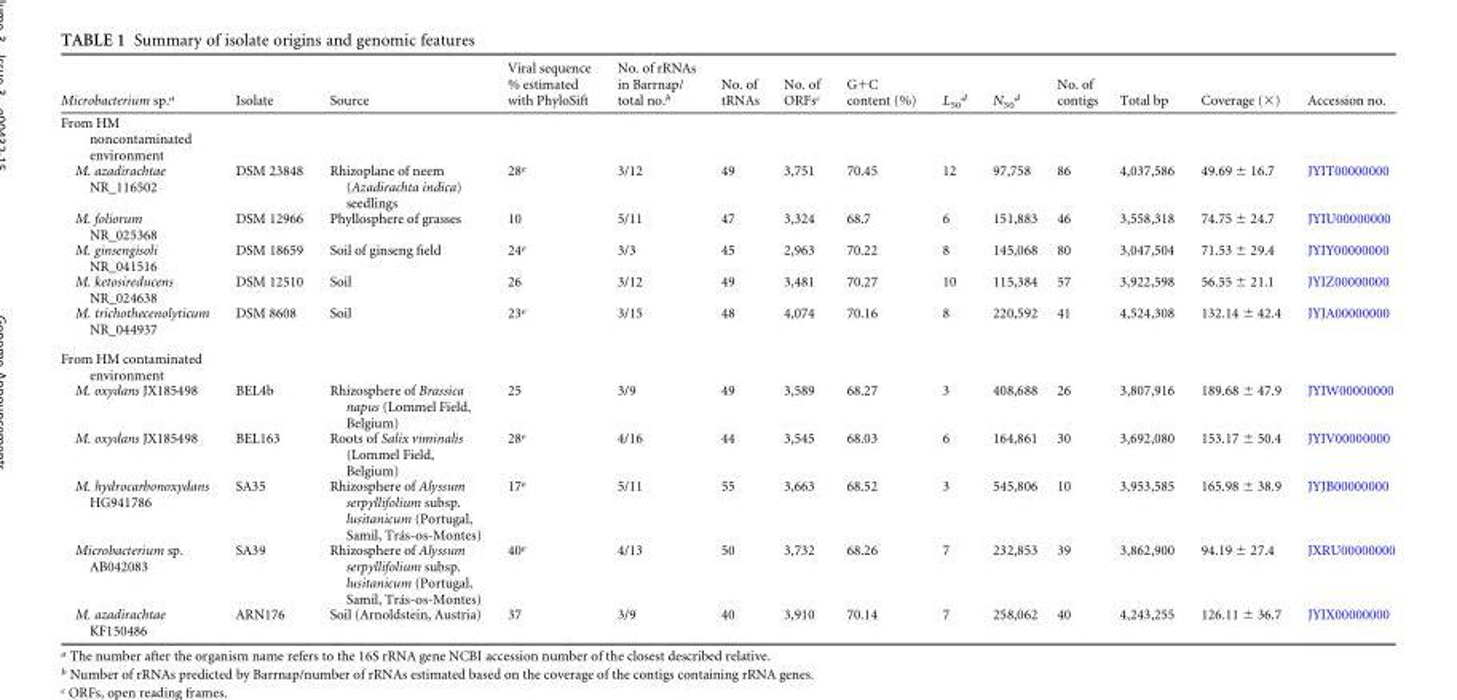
<table><thead><tr><td>Microbacterium sp.<sup>a</sup></td><td>Isolate</td><td>Source</td><td>Viral sequence % estimated with PhyloSift</td><td>No. of rRNAs in Barrnap/ total no.<sup>b</sup></td><td>No. of tRNAs</td><td>No. of ORFs<sup>c</sup></td><td>G+C content (%)</td><td>L<sub>50</sub><sup>d</sup></td><td>N<sub>50</sub><sup>d</sup></td><td>No. of contigs</td><td>Total bp</td><td>Coverage (×)</td><td>Accession no.</td></tr></thead><tbody><tr><td colspan="14">From HM noncontaminated environment</td></tr><tr><td>M. azadirachtae NR_116502</td><td>DSM 23848</td><td>Rhizoplane of neem (Azadirachta indica) seedlings</td><td>28<sup>e</sup></td><td>3/12</td><td>49</td><td>3,751</td><td>70.45</td><td>12</td><td>97,758</td><td>86</td><td>4,037,586</td><td>49.69 ± 16.7</td><td>JYIT00000000</td></tr><tr><td>M. foliorum NR_025368</td><td>DSM 12966</td><td>Phyllosphere of grasses</td><td>10</td><td>5/11</td><td>47</td><td>3,324</td><td>68.7</td><td>6</td><td>151,883</td><td>46</td><td>3,558,318</td><td>74.75 ± 24.7</td><td>JYIU00000000</td></tr><tr><td>M. ginsengisoli NR_041516</td><td>DSM 18659</td><td>Soil of ginseng field</td><td>24<sup>e</sup></td><td>3/3</td><td>45</td><td>2,963</td><td>70.22</td><td>8</td><td>145,068</td><td>80</td><td>3,047,504</td><td>71.53 ± 29.4</td><td>JYIY00000000</td></tr><tr><td>M. ketosireducens NR_024638</td><td>DSM 12510</td><td>Soil</td><td>26</td><td>3/12</td><td>49</td><td>3,481</td><td>70.27</td><td>10</td><td>115,384</td><td>57</td><td>3,922,598</td><td>56.55 ± 21.1</td><td>JYIZ00000000</td></tr><tr><td>M. trichothecenolyticum NR_044937</td><td>DSM 8608</td><td>Soil</td><td>23<sup>e</sup></td><td>3/15</td><td>48</td><td>4,074</td><td>70.16</td><td>8</td><td>220,592</td><td>41</td><td>4,524,308</td><td>132.14 ± 42.4</td><td>JYJA00000000</td></tr><tr><td colspan="14">From HM contaminated environment</td></tr><tr><td>M. oxydans JX185498</td><td>BEL4b</td><td>Rhizosphere of Brassica napus (Lommel Field, Belgium)</td><td>25</td><td>3/9</td><td>49</td><td>3,589</td><td>68.27</td><td>3</td><td>408,688</td><td>26</td><td>3,807,916</td><td>189.68 ± 47.9</td><td>JYIW00000000</td></tr><tr><td>M. oxydans JX185498</td><td>BEL163</td><td>Roots of Salix viminalis (Lommel Field, Belgium)</td><td>28<sup>e</sup></td><td>4/16</td><td>44</td><td>3,545</td><td>68.03</td><td>6</td><td>164,861</td><td>30</td><td>3,692,080</td><td>153.17 ± 50.4</td><td>JYIV00000000</td></tr><tr><td>M. hydrocarbonoxydans HG941786</td><td>SA35</td><td>Rhizosphere of Alyssum serpyllifolium subsp. lusitanicum (Portugal, Samil, Trás-os-Montes)</td><td>17<sup>e</sup></td><td>5/11</td><td>55</td><td>3,663</td><td>68.52</td><td>3</td><td>545,806</td><td>10</td><td>3,953,585</td><td>165.98 ± 38.9</td><td>JYJB00000000</td></tr><tr><td>Microbacterium sp. AB042083</td><td>SA39</td><td>Rhizosphere of Alyssum serpyllifolium subsp. lusitanicum (Portugal, Samil, Trás-os-Montes)</td><td>40<sup>e</sup></td><td>4/13</td><td>50</td><td>3,732</td><td>68.26</td><td>7</td><td>232,853</td><td>39</td><td>3,862,900</td><td>94.19 ± 27.4</td><td>JXRU00000000</td></tr><tr><td>M. azadirachtae KF150486</td><td>ARN176</td><td>Soil (Arnoldstein, Austria)</td><td>37</td><td>3/9</td><td>40</td><td>3,910</td><td>70.14</td><td>7</td><td>258,062</td><td>40</td><td>4,243,255</td><td>126.11 ± 36.7</td><td>JYIX00000000</td></tr></tbody></table>